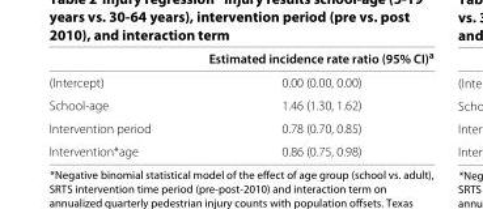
<table><thead><tr><td></td><td>Estimated incidence rate ratio (95% CI)<sup>a</sup></td></tr></thead><tbody><tr><td>(Intercept)</td><td>0.00 (0.00, 0.00)</td></tr><tr><td>School-age</td><td>1.46 (1.30, 1.62)</td></tr><tr><td>Intervention period</td><td>0.78 (0.70, 0.85)</td></tr><tr><td>Intervention*age</td><td>0.86 (0.75, 0.98)</td></tr></tbody></table>